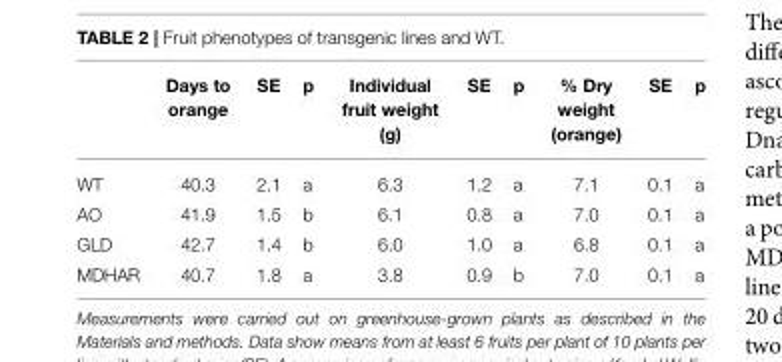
<table><thead><tr><td></td><td>Days to orange</td><td>SE</td><td>p</td><td>Individual fruit weight (g)</td><td>SE</td><td>p</td><td>% Dry weight (orange)</td><td>SE</td><td>p</td></tr></thead><tbody><tr><td>WT</td><td>40.3</td><td>2.1</td><td>a</td><td>6.3</td><td>1.2</td><td>a</td><td>7.1</td><td>0.1</td><td>a</td></tr><tr><td>AO</td><td>41.9</td><td>1.5</td><td>b</td><td>6.1</td><td>0.8</td><td>a</td><td>7.0</td><td>0.1</td><td>a</td></tr><tr><td>GLD</td><td>42.7</td><td>1.4</td><td>b</td><td>6.0</td><td>1.0</td><td>a</td><td>6.8</td><td>0.1</td><td>a</td></tr><tr><td>MDHAR</td><td>40.7</td><td>1.8</td><td>a</td><td>3.8</td><td>0.9</td><td>b</td><td>7.0</td><td>0.1</td><td>a</td></tr></tbody></table>